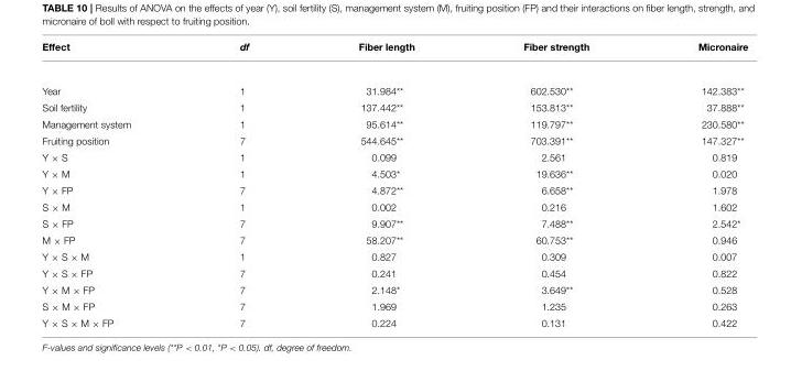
<table><thead><tr><td>Effect</td><td>df</td><td>Fiber length</td><td>Fiber strength</td><td>Micronaire</td></tr></thead><tbody><tr><td>Year</td><td>1</td><td>31.984**</td><td>602.530**</td><td>142.383**</td></tr><tr><td>Soil fertility</td><td>1</td><td>137.442**</td><td>153.813**</td><td>37.888**</td></tr><tr><td>Management system</td><td>1</td><td>95.614**</td><td>119.797**</td><td>230.580**</td></tr><tr><td>Fruiting position</td><td>7</td><td>544.645**</td><td>703.391**</td><td>147.327**</td></tr><tr><td>Y × S</td><td>1</td><td>0.099</td><td>2.561</td><td>0.819</td></tr><tr><td>Y × M</td><td>1</td><td>4.503*</td><td>19.636**</td><td>0.020</td></tr><tr><td>Y × FP</td><td>7</td><td>4.872**</td><td>6.658**</td><td>1.978</td></tr><tr><td>S × M</td><td>1</td><td>0.002</td><td>0.216</td><td>1.602</td></tr><tr><td>S × FP</td><td>7</td><td>9.907**</td><td>7.488**</td><td>2.542*</td></tr><tr><td>M × FP</td><td>7</td><td>58.207**</td><td>60.753**</td><td>0.946</td></tr><tr><td>Y × S × M</td><td>1</td><td>0.827</td><td>0.309</td><td>0.007</td></tr><tr><td>Y × S × FP</td><td>7</td><td>0.241</td><td>0.454</td><td>0.822</td></tr><tr><td>Y × M × FP</td><td>7</td><td>2.148*</td><td>3.649**</td><td>0.528</td></tr><tr><td>S × M × FP</td><td>7</td><td>1.969</td><td>1.235</td><td>0.263</td></tr><tr><td>Y × S × M × FP</td><td>7</td><td>0.224</td><td>0.131</td><td>0.422</td></tr></tbody></table>